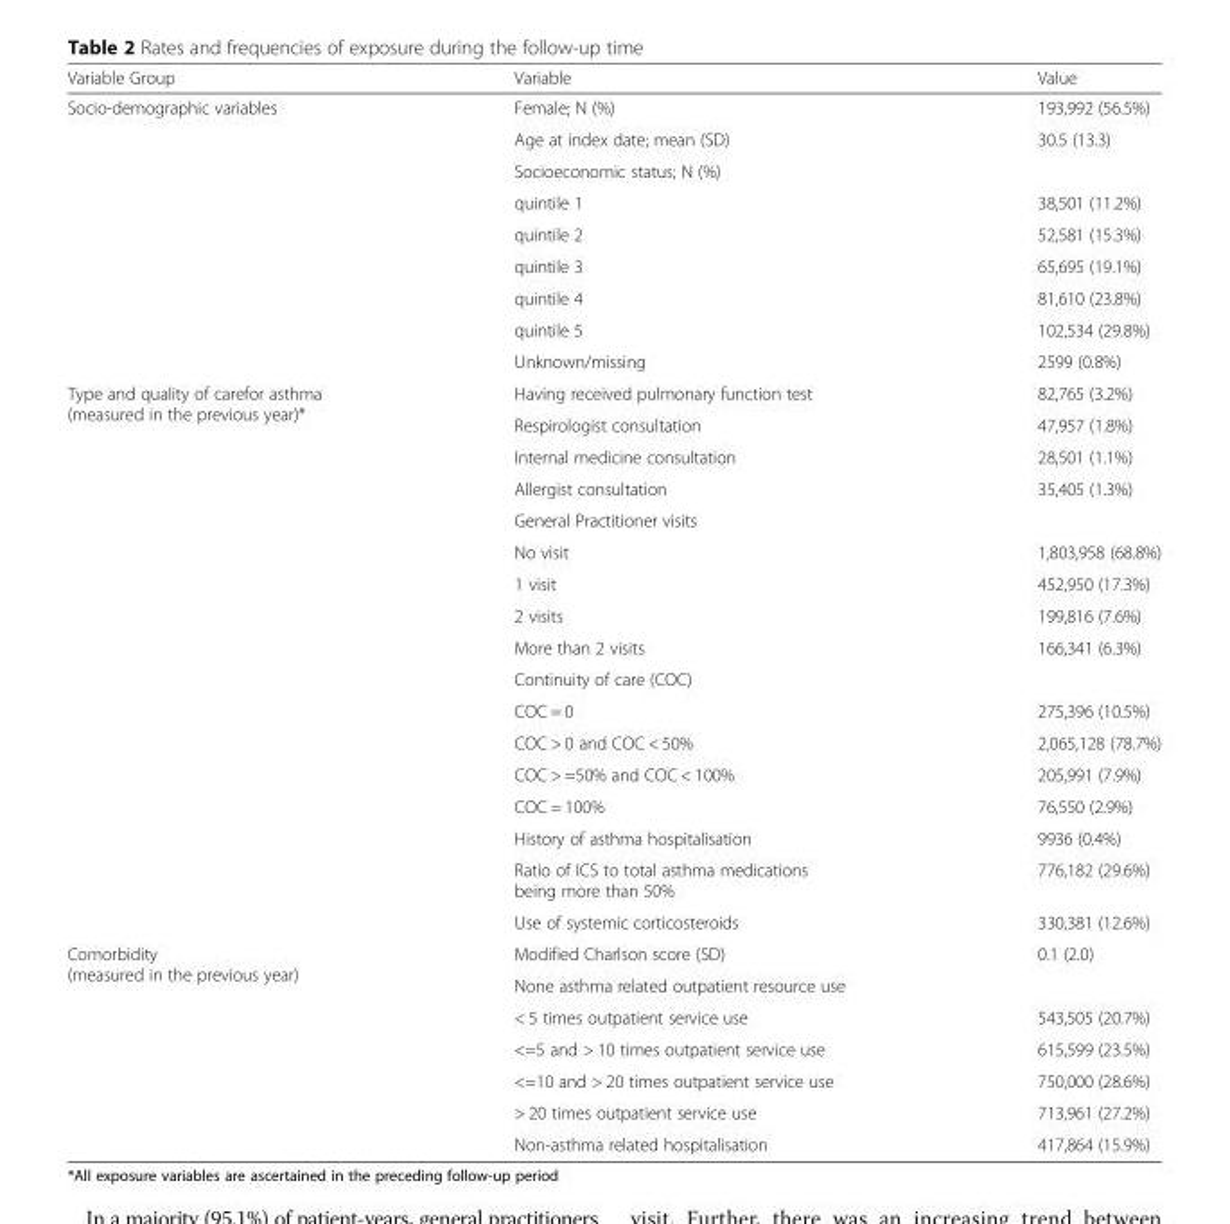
<table><thead><tr><td>Variable Group</td><td>Variable</td><td>Value</td></tr></thead><tbody><tr><td rowspan="9">Socio-demographic variables</td><td>Female; N (%)</td><td>193,992 (56.5%)</td></tr><tr><td>Age at index date; mean (SD)</td><td>30.5 (13.3)</td></tr><tr><td>Socioeconomic status; N (%)</td><td></td></tr><tr><td>quintile 1</td><td>38,501 (11.2%)</td></tr><tr><td>quintile 2</td><td>52,581 (15.3%)</td></tr><tr><td>quintile 3</td><td>65,695 (19.1%)</td></tr><tr><td>quintile 4</td><td>81,610 (23.8%)</td></tr><tr><td>quintile 5</td><td>102,534 (29.8%)</td></tr><tr><td>Unknown/missing</td><td>2599 (0.8%)</td></tr><tr><td rowspan="17">Type and quality of carefor asthma (measured in the previous year)*</td><td>Having received pulmonary function test</td><td>82,765 (3.2%)</td></tr><tr><td>Respirologist consultation</td><td>47,957 (1.8%)</td></tr><tr><td>Internal medicine consultation</td><td>28,501 (1.1%)</td></tr><tr><td>Allergist consultation</td><td>35,405 (1.3%)</td></tr><tr><td>General Practitioner visits</td><td></td></tr><tr><td>No visit</td><td>1,803,958 (68.8%)</td></tr><tr><td>1 visit</td><td>452,950 (17.3%)</td></tr><tr><td>2 visits</td><td>199,816 (7.6%)</td></tr><tr><td>More than 2 visits</td><td>166,341 (6.3%)</td></tr><tr><td>Continuity of care (COC)</td><td></td></tr><tr><td>COC = 0</td><td>275,396 (10.5%)</td></tr><tr><td>COC &gt; 0 and COC &lt; 50%</td><td>2,065,128 (78.7%)</td></tr><tr><td>COC &gt; =50% and COC &lt; 100%</td><td>205,991 (7.9%)</td></tr><tr><td>COC = 100%</td><td>76,550 (2.9%)</td></tr><tr><td>History of asthma hospitalisation</td><td>9936 (0.4%)</td></tr><tr><td>Ratio of ICS to total asthma medications being more than 50%</td><td>776,182 (29.6%)</td></tr><tr><td>Use of systemic corticosteroids</td><td>330,381 (12.6%)</td></tr><tr><td rowspan="7">Comorbidity (measured in the previous year)</td><td>Modified Charlson score (SD)</td><td>0.1 (2.0)</td></tr><tr><td>None asthma related outpatient resource use</td><td></td></tr><tr><td>&lt; 5 times outpatient service use</td><td>543,505 (20.7%)</td></tr><tr><td>&lt;=5 and &gt; 10 times outpatient service use</td><td>615,599 (23.5%)</td></tr><tr><td>&lt;=10 and &gt; 20 times outpatient service use</td><td>750,000 (28.6%)</td></tr><tr><td>&gt; 20 times outpatient service use</td><td>713,961 (27.2%)</td></tr><tr><td>Non-asthma related hospitalisation</td><td>417,864 (15.9%)</td></tr></tbody></table>